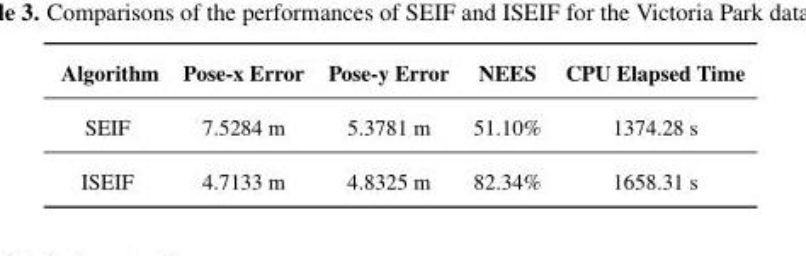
<table><thead><tr><td>Algorithm</td><td>Pose-x Error</td><td>Pose-y Error</td><td>NEES</td><td>CPU Elapsed Time</td></tr></thead><tbody><tr><td>SEIF</td><td>7.5284 m</td><td>5.3781 m</td><td>51.10%</td><td>1374.28 s</td></tr><tr><td>ISEIF</td><td>4.7133 m</td><td>4.8325 m</td><td>82.34%</td><td>1658.31 s</td></tr></tbody></table>